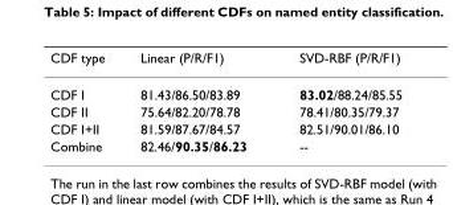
<table><thead><tr><td>CDF type</td><td>Linear (P/R/F1)</td><td>SVD-RBF (P/R/F1)</td></tr></thead><tbody><tr><td>CDF I</td><td>81.43/86.50/83.89</td><td>83.02/88.24/85.55</td></tr><tr><td>CDF II</td><td>75.64/82.20/78.78</td><td>78.41/80.35/79.37</td></tr><tr><td>CDF I+II</td><td>81.59/87.67/84.57</td><td>82.51/90.01/86.10</td></tr><tr><td>Combine</td><td>82.46/90.35/86.23</td><td>--</td></tr></tbody></table>